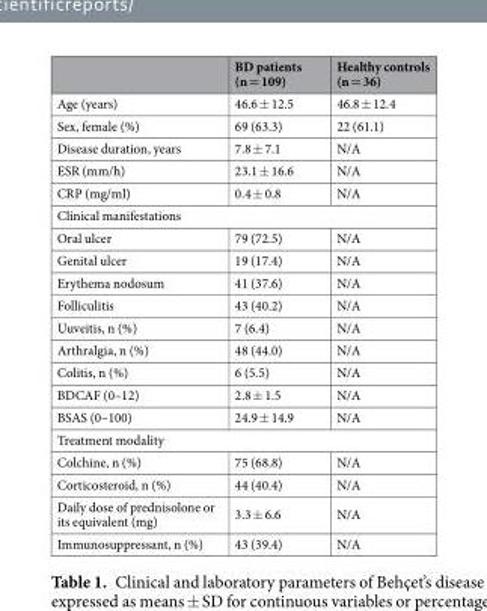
<table><thead><tr><td></td><td>BD patients (n = 109)</td><td>Healthy controls (n = 36)</td></tr></thead><tbody><tr><td>Age (years)</td><td>46.6 ± 12.5</td><td>46.8 ± 12.4</td></tr><tr><td>Sex, female (%)</td><td>69 (63.3)</td><td>22 (61.1)</td></tr><tr><td>Disease duration, years</td><td>7.8 ± 7.1</td><td>N/A</td></tr><tr><td>ESR (mm/h)</td><td>23.1 ± 16.6</td><td>N/A</td></tr><tr><td>CRP (mg/ml)</td><td>0.4 ± 0.8</td><td>N/A</td></tr><tr><td colspan="3">Clinical manifestations</td></tr><tr><td>Oral ulcer</td><td>79 (72.5)</td><td>N/A</td></tr><tr><td>Genital ulcer</td><td>19 (17.4)</td><td>N/A</td></tr><tr><td>Erythema nodosum</td><td>41 (37.6)</td><td>N/A</td></tr><tr><td>Folliculitis</td><td>43 (40.2)</td><td>N/A</td></tr><tr><td>Uuveitis, n (%)</td><td>7 (6.4)</td><td>N/A</td></tr><tr><td>Arthralgia, n (%)</td><td>48 (44.0)</td><td>N/A</td></tr><tr><td>Colitis, n (%)</td><td>6 (5.5)</td><td>N/A</td></tr><tr><td>BDCAF (0–12)</td><td>2.8 ± 1.5</td><td>N/A</td></tr><tr><td>BSAS (0–100)</td><td>24.9 ± 14.9</td><td>N/A</td></tr><tr><td colspan="3">Treatment modality</td></tr><tr><td>Colchine, n (%)</td><td>75 (68.8)</td><td>N/A</td></tr><tr><td>Corticosteroid, n (%)</td><td>44 (40.4)</td><td>N/A</td></tr><tr><td>Daily dose of prednisolone or its equivalent (mg)</td><td>3.3 ± 6.6</td><td>N/A</td></tr><tr><td>Immunosuppressant, n (%)</td><td>43 (39.4)</td><td>N/A</td></tr></tbody></table>